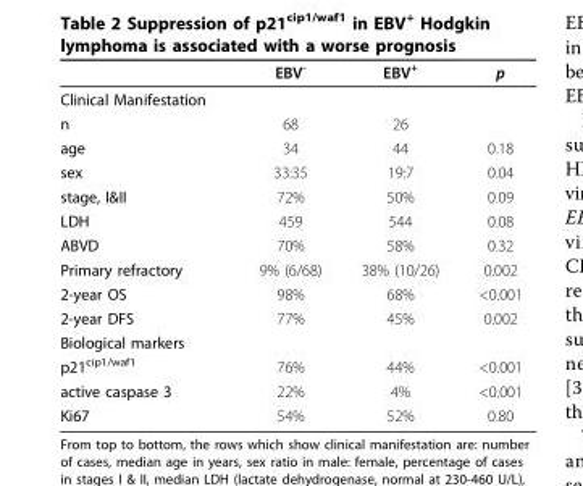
<table><thead><tr><td></td><td>EBV<sup>-</sup></td><td>EBV<sup>+</sup></td><td>p</td></tr></thead><tbody><tr><td colspan="4">Clinical Manifestation</td></tr><tr><td>n</td><td>68</td><td>26</td><td></td></tr><tr><td>age</td><td>34</td><td>44</td><td>0.18</td></tr><tr><td>sex</td><td>33:35</td><td>19:7</td><td>0.04</td></tr><tr><td>stage, I&amp;II</td><td>72%</td><td>50%</td><td>0.09</td></tr><tr><td>LDH</td><td>459</td><td>544</td><td>0.08</td></tr><tr><td>ABVD</td><td>70%</td><td>58%</td><td>0.32</td></tr><tr><td>Primary refractory</td><td>9% (6/68)</td><td>38% (10/26)</td><td>0.002</td></tr><tr><td>2-year OS</td><td>98%</td><td>68%</td><td>&lt;0.001</td></tr><tr><td>2-year DFS</td><td>77%</td><td>45%</td><td>0.002</td></tr><tr><td colspan="4">Biological markers</td></tr><tr><td>p21<sup>cip1/waf1</sup></td><td>76%</td><td>44%</td><td>&lt;0.001</td></tr><tr><td>active caspase 3</td><td>22%</td><td>4%</td><td>&lt;0.001</td></tr><tr><td>Ki67</td><td>54%</td><td>52%</td><td>0.80</td></tr></tbody></table>